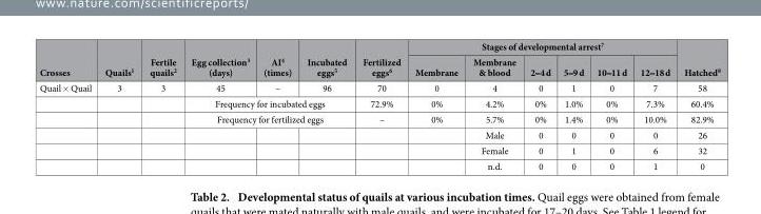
<table><thead><tr><td rowspan="2">Crosses</td><td rowspan="2">Quails<sup>1</sup></td><td rowspan="2">Fertile quails<sup>2</sup></td><td rowspan="2">Egg collection<sup>3</sup> (days)</td><td rowspan="2">AI<sup>4</sup> (times)</td><td rowspan="2">Incubated eggs<sup>5</sup></td><td rowspan="2">Fertilized eggs<sup>6</sup></td><td colspan="6">Stages of developmental arrest<sup>7</sup></td><td rowspan="2">Hatched<sup>8</sup></td></tr><tr><td>Membrane</td><td>Membrane &amp; blood</td><td>2‒4 d</td><td>5‒9 d</td><td>10‒11 d</td><td>12‒18 d</td></tr></thead><tbody><tr><td rowspan="6">Quail × Quail</td><td>3</td><td>3</td><td>45</td><td>–</td><td>96</td><td>70</td><td>0</td><td>4</td><td>0</td><td>1</td><td>0</td><td>7</td><td>58</td></tr><tr><td></td><td></td><td colspan="3">Frequency for incubated eggs</td><td>72.9%</td><td>0%</td><td>4.2%</td><td>0%</td><td>1.0%</td><td>0%</td><td>7.3%</td><td>60.4%</td></tr><tr><td></td><td></td><td colspan="3">Frequency for fertilized eggs</td><td>–</td><td>0%</td><td>5.7%</td><td>0%</td><td>1.4%</td><td>0%</td><td>10.0%</td><td>82.9%</td></tr><tr><td></td><td></td><td></td><td></td><td></td><td></td><td></td><td>Male</td><td>0</td><td>0</td><td>0</td><td>0</td><td>26</td></tr><tr><td></td><td></td><td></td><td></td><td></td><td></td><td></td><td>Female</td><td>0</td><td>1</td><td>0</td><td>6</td><td>32</td></tr><tr><td></td><td></td><td></td><td></td><td></td><td></td><td></td><td>n.d.</td><td>0</td><td>0</td><td>0</td><td>1</td><td>0</td></tr></tbody></table>